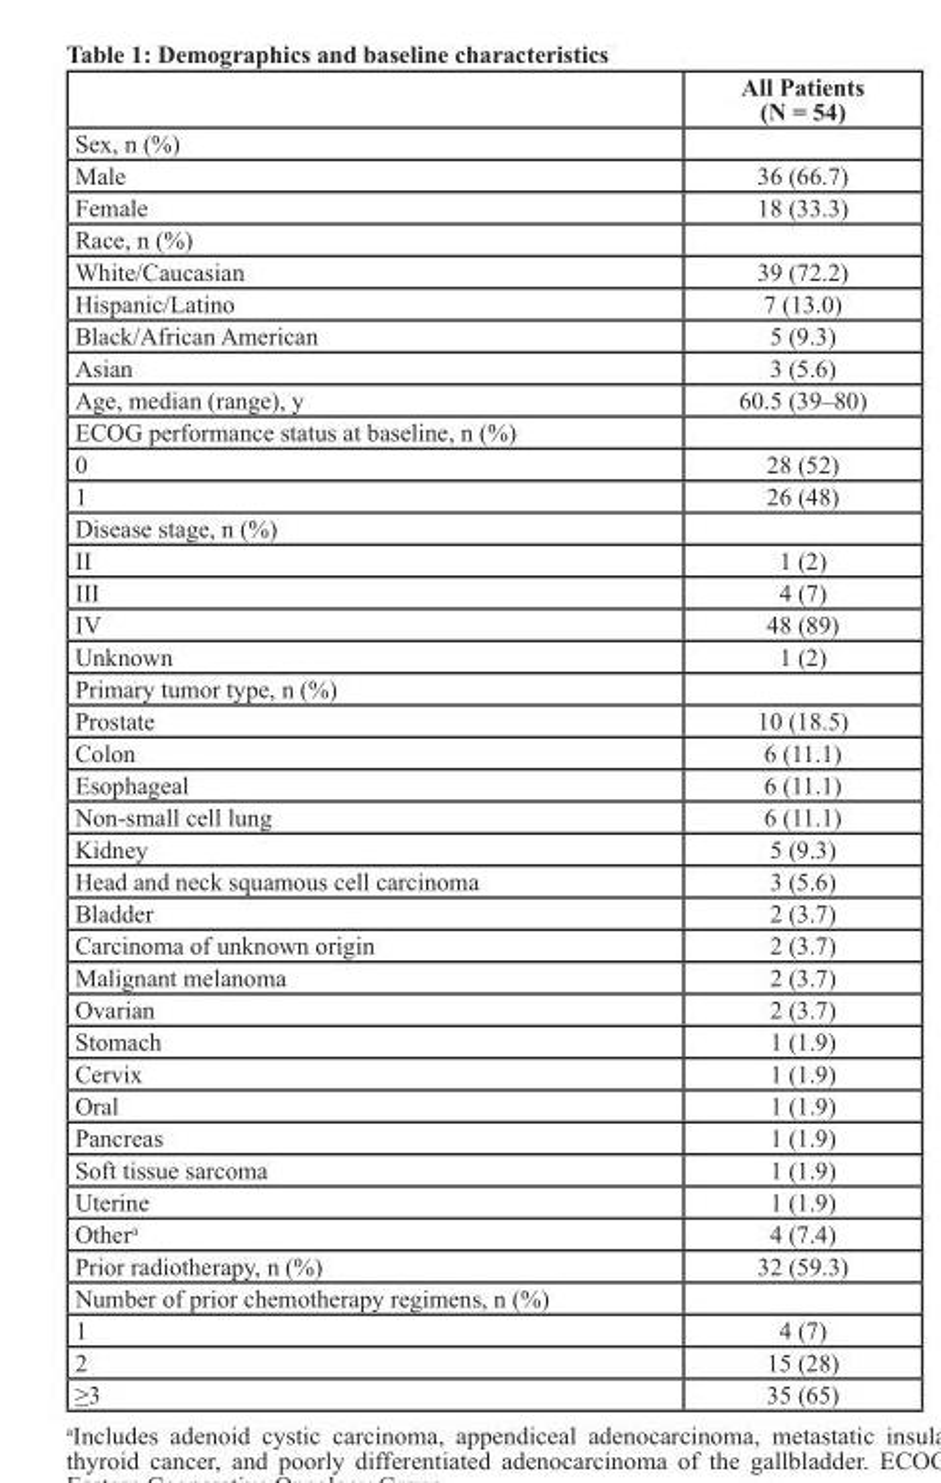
<table><thead><tr><td></td><td>All Patients (N = 54)</td></tr></thead><tbody><tr><td colspan="2">Sex, n (%)</td></tr><tr><td>Male</td><td>36 (66.7)</td></tr><tr><td>Female</td><td>18 (33.3)</td></tr><tr><td colspan="2">Race, n (%)</td></tr><tr><td>White/Caucasian</td><td>39 (72.2)</td></tr><tr><td>Hispanic/Latino</td><td>7 (13.0)</td></tr><tr><td>Black/African American</td><td>5 (9.3)</td></tr><tr><td>Asian</td><td>3 (5.6)</td></tr><tr><td>Age, median (range), y</td><td>60.5 (39 –80)</td></tr><tr><td colspan="2">ECOG performance status at baseline, n (%)</td></tr><tr><td>0</td><td>28 (52)</td></tr><tr><td>1</td><td>26 (48)</td></tr><tr><td colspan="2">Disease stage, n (%)</td></tr><tr><td>II</td><td>1 (2)</td></tr><tr><td>III</td><td>4 (7)</td></tr><tr><td>IV</td><td>48 (89)</td></tr><tr><td>Unknown</td><td>1 (2)</td></tr><tr><td colspan="2">Primary tumor type, n (%)</td></tr><tr><td>Prostate</td><td>10 (18.5)</td></tr><tr><td>Colon</td><td>6 (11.1)</td></tr><tr><td>Esophageal</td><td>6 (11.1)</td></tr><tr><td>Non-small cell lung</td><td>6 (11.1)</td></tr><tr><td>Kidney</td><td>5 (9.3)</td></tr><tr><td>Head and neck squamous cell carcinoma</td><td>3 (5.6)</td></tr><tr><td>Bladder</td><td>2 (3.7)</td></tr><tr><td>Carcinoma of unknown origin</td><td>2 (3.7)</td></tr><tr><td>Malignant melanoma</td><td>2 (3.7)</td></tr><tr><td>Ovarian</td><td>2 (3.7)</td></tr><tr><td>Stomach</td><td>1 (1.9)</td></tr><tr><td>Cervix</td><td>1 (1.9)</td></tr><tr><td>Oral</td><td>1 (1.9)</td></tr><tr><td>Pancreas</td><td>1 (1.9)</td></tr><tr><td>Soft tissue sarcoma</td><td>1 (1.9)</td></tr><tr><td>Uterine</td><td>1 (1.9)</td></tr><tr><td>Other<sup>a</sup></td><td>4 (7.4)</td></tr><tr><td>Prior radiotherapy, n (%)</td><td>32 (59.3)</td></tr><tr><td colspan="2">Number of prior chemotherapy regimens, n (%)</td></tr><tr><td>1</td><td>4 (7)</td></tr><tr><td>2</td><td>15 (28)</td></tr><tr><td>≥3</td><td>35 (65)</td></tr></tbody></table>